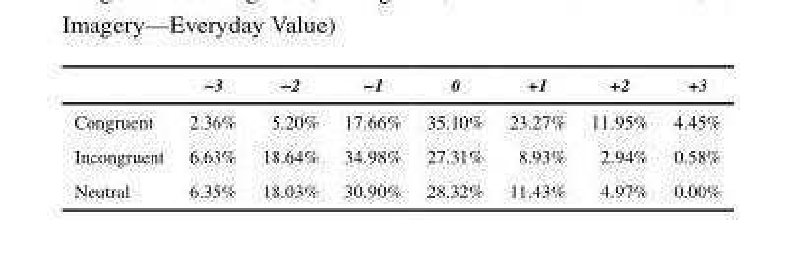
<table><thead><tr><td></td><td>−3</td><td>−2</td><td>−1</td><td>0</td><td>+1</td><td>+2</td><td>+3</td></tr></thead><tbody><tr><td>Congruent</td><td>2.36%</td><td>5.20%</td><td>17.66%</td><td>35.10%</td><td>23.27%</td><td>11.95%</td><td>4.45%</td></tr><tr><td>Incongruent</td><td>6.63%</td><td>18.64%</td><td>34.98%</td><td>27.31%</td><td>8.93%</td><td>2.94%</td><td>0.58%</td></tr><tr><td>Neutral</td><td>6.35%</td><td>18.03%</td><td>30.90%</td><td>28.32%</td><td>11.43%</td><td>4.97%</td><td>0.00%</td></tr></tbody></table>